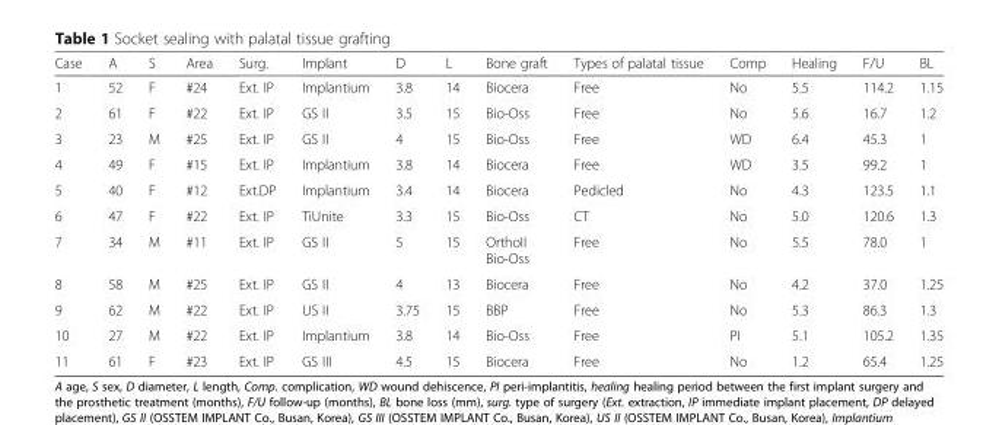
<table><thead><tr><td>Case</td><td>A</td><td>S</td><td>Area</td><td>Surg.</td><td>Implant</td><td>D</td><td>L</td><td>Bone graft</td><td>Types of palatal tissue</td><td>Comp</td><td>Healing</td><td>F/U</td><td>BL</td></tr></thead><tbody><tr><td>1</td><td>52</td><td>F</td><td>#24</td><td>Ext. IP</td><td>Implantium</td><td>3.8</td><td>14</td><td>Biocera</td><td>Free</td><td>No</td><td>5.5</td><td>114.2</td><td>1.15</td></tr><tr><td>2</td><td>61</td><td>F</td><td>#22</td><td>Ext. IP</td><td>GS II</td><td>3.5</td><td>15</td><td>Bio-Oss</td><td>Free</td><td>No</td><td>5.6</td><td>16.7</td><td>1.2</td></tr><tr><td>3</td><td>23</td><td>M</td><td>#25</td><td>Ext. IP</td><td>GS II</td><td>4</td><td>15</td><td>Bio-Oss</td><td>Free</td><td>WD</td><td>6.4</td><td>45.3</td><td>1</td></tr><tr><td>4</td><td>49</td><td>F</td><td>#15</td><td>Ext. IP</td><td>Implantium</td><td>3.8</td><td>14</td><td>Biocera</td><td>Free</td><td>WD</td><td>3.5</td><td>99.2</td><td>1</td></tr><tr><td>5</td><td>40</td><td>F</td><td>#12</td><td>Ext.DP</td><td>Implantium</td><td>3.4</td><td>14</td><td>Biocera</td><td>Pedicled</td><td>No</td><td>4.3</td><td>123.5</td><td>1.1</td></tr><tr><td>6</td><td>47</td><td>F</td><td>#22</td><td>Ext. IP</td><td>TiUnite</td><td>3.3</td><td>15</td><td>Bio-Oss</td><td>CT</td><td>No</td><td>5.0</td><td>120.6</td><td>1.3</td></tr><tr><td>7</td><td>34</td><td>M</td><td>#11</td><td>Ext. IP</td><td>GS II</td><td>5</td><td>15</td><td>OrthoII Bio-Oss</td><td>Free</td><td>No</td><td>5.5</td><td>78.0</td><td>1</td></tr><tr><td>8</td><td>58</td><td>M</td><td>#25</td><td>Ext. IP</td><td>GS II</td><td>4</td><td>13</td><td>Biocera</td><td>Free</td><td>No</td><td>4.2</td><td>37.0</td><td>1.25</td></tr><tr><td>9</td><td>62</td><td>M</td><td>#22</td><td>Ext. IP</td><td>US II</td><td>3.75</td><td>15</td><td>BBP</td><td>Free</td><td>No</td><td>5.3</td><td>86.3</td><td>1.3</td></tr><tr><td>10</td><td>27</td><td>M</td><td>#22</td><td>Ext. IP</td><td>Implantium</td><td>3.8</td><td>14</td><td>Bio-Oss</td><td>Free</td><td>PI</td><td>5.1</td><td>105.2</td><td>1.35</td></tr><tr><td>11</td><td>61</td><td>F</td><td>#23</td><td>Ext. IP</td><td>GS III</td><td>4.5</td><td>15</td><td>Biocera</td><td>Free</td><td>No</td><td>1.2</td><td>65.4</td><td>1.25</td></tr></tbody></table>